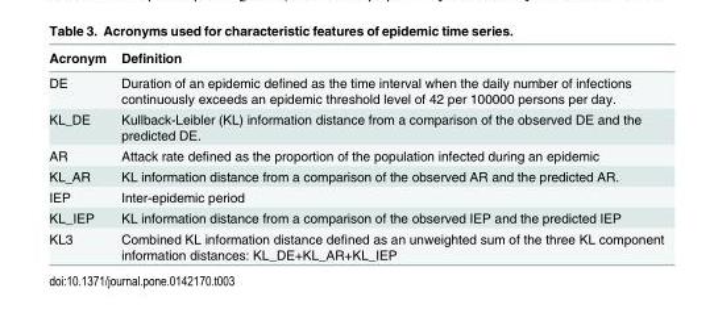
<table><thead><tr><td>Acronym</td><td>Definition</td></tr></thead><tbody><tr><td>DE</td><td>Duration of an epidemic defined as the time interval when the daily number of infections continuously exceeds an epidemic threshold level of 42 per 100000 persons per day.</td></tr><tr><td>KL_DE</td><td>Kullback-Leibler (KL) information distance from a comparison of the observed DE and the predicted DE.</td></tr><tr><td>AR</td><td>Attack rate defined as the proportion of the population infected during an epidemic</td></tr><tr><td>KL_AR</td><td>KL information distance from a comparison of the observed AR and the predicted AR.</td></tr><tr><td>IEP</td><td>Inter-epidemic period</td></tr><tr><td>KL_IEP</td><td>KL information distance from a comparison of the observed IEP and the predicted IEP</td></tr><tr><td>KL3</td><td>Combined KL information distance defined as an unweighted sum of the three KL component information distances: KL_DE+KL_AR+KL_IEP</td></tr></tbody></table>